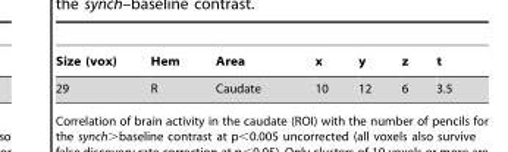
<table><thead><tr><td>Size (vox)</td><td>Hem</td><td>Area</td><td>x</td><td>y</td><td>z</td><td>t</td></tr></thead><tbody><tr><td>29</td><td>R</td><td>Caudate</td><td>10</td><td>12</td><td>6</td><td>3.5</td></tr></tbody></table>